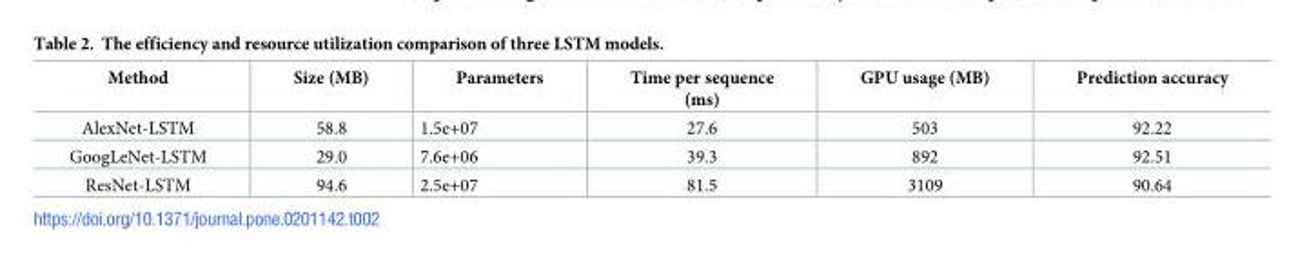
<table><thead><tr><td>Method</td><td>Size (MB)</td><td>Parameters</td><td>Time per sequence (ms)</td><td>GPU usage (MB)</td><td>Prediction accuracy</td></tr></thead><tbody><tr><td>AlexNet-LSTM</td><td>58.8</td><td>1.5e+07</td><td>27.6</td><td>503</td><td>92.22</td></tr><tr><td>GoogLeNet-LSTM</td><td>29.0</td><td>7.6e+06</td><td>39.3</td><td>892</td><td>92.51</td></tr><tr><td>ResNet-LSTM</td><td>94.6</td><td>2.5e+07</td><td>81.5</td><td>3109</td><td>90.64</td></tr></tbody></table>